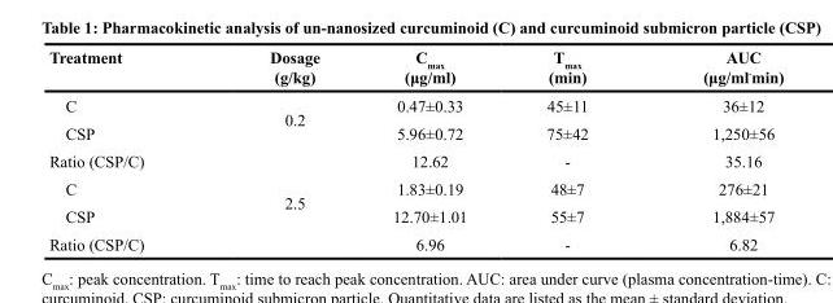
<table><thead><tr><td>Treatment</td><td>Dosage (g/kg)</td><td>C<sub>max</sub> (μg/ml)</td><td>T<sub>max</sub> (min)</td><td>AUC (μg/ml∙min)</td></tr></thead><tbody><tr><td>C</td><td rowspan="2">0.2</td><td>0.47±0.33</td><td>45±11</td><td>36±12</td></tr><tr><td>CSP</td><td>5.96±0.72</td><td>75±42</td><td>1,250±56</td></tr><tr><td>Ratio (CSP/C)</td><td></td><td>12.62</td><td>-</td><td>35.16</td></tr><tr><td>C</td><td rowspan="2">2.5</td><td>1.83±0.19</td><td>48±7</td><td>276±21</td></tr><tr><td>CSP</td><td>12.70±1.01</td><td>55±7</td><td>1,884±57</td></tr><tr><td>Ratio (CSP/C)</td><td></td><td>6.96</td><td>-</td><td>6.82</td></tr></tbody></table>